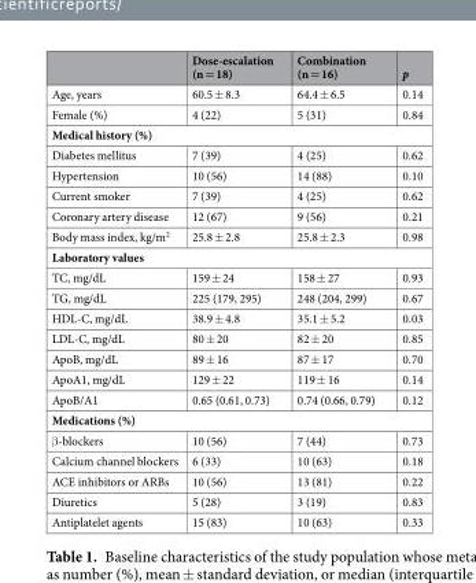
<table><thead><tr><td></td><td>Dose-escalation (n = 18)</td><td>Combination (n = 16)</td><td>p</td></tr></thead><tbody><tr><td>Age, years</td><td>60.5 ± 8.3</td><td>64.4 ± 6.5</td><td>0.14</td></tr><tr><td>Female (%)</td><td>4 (22)</td><td>5 (31)</td><td>0.84</td></tr><tr><td colspan="4">Medical history (%)</td></tr><tr><td>Diabetes mellitus</td><td>7 (39)</td><td>4 (25)</td><td>0.62</td></tr><tr><td>Hypertension</td><td>10 (56)</td><td>14 (88)</td><td>0.10</td></tr><tr><td>Current smoker</td><td>7 (39)</td><td>4 (25)</td><td>0.62</td></tr><tr><td>Coronary artery disease</td><td>12 (67)</td><td>9 (56)</td><td>0.21</td></tr><tr><td>Body mass index, kg/m<sup>2</sup></td><td>25.8 ± 2.8</td><td>25.8 ± 2.3</td><td>0.98</td></tr><tr><td colspan="4">Laboratory values</td></tr><tr><td>TC, mg/dL</td><td>159 ± 24</td><td>158 ± 27</td><td>0.93</td></tr><tr><td>TG, mg/dL</td><td>225 (179, 295)</td><td>248 (204, 299)</td><td>0.67</td></tr><tr><td>HDL-C, mg/dL</td><td>38.9 ± 4.8</td><td>35.1 ± 5.2</td><td>0.03</td></tr><tr><td>LDL-C, mg/dL</td><td>80 ± 20</td><td>82 ± 20</td><td>0.85</td></tr><tr><td>ApoB, mg/dL</td><td>89 ± 16</td><td>87 ± 17</td><td>0.70</td></tr><tr><td>ApoA1, mg/dL</td><td>129 ± 22</td><td>119 ± 16</td><td>0.14</td></tr><tr><td>ApoB/A1</td><td>0.65 (0.61, 0.73)</td><td>0.74 (0.66, 0.79)</td><td>0.12</td></tr><tr><td colspan="4">Medications (%)</td></tr><tr><td>β-blockers</td><td>10 (56)</td><td>7 (44)</td><td>0.73</td></tr><tr><td>Calcium channel blockers</td><td>6 (33)</td><td>10 (63)</td><td>0.18</td></tr><tr><td>ACE inhibitors or ARBs</td><td>10 (56)</td><td>13 (81)</td><td>0.22</td></tr><tr><td>Diuretics</td><td>5 (28)</td><td>3 (19)</td><td>0.83</td></tr><tr><td>Antiplatelet agents</td><td>15 (83)</td><td>10 (63)</td><td>0.33</td></tr></tbody></table>